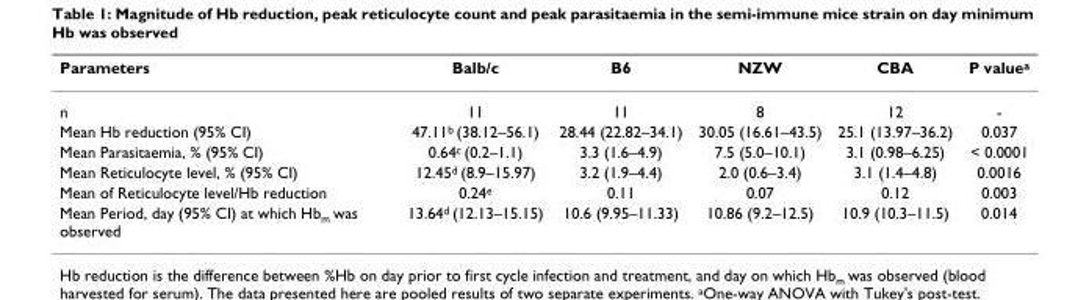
<table><thead><tr><td>Parameters</td><td>Balb/c</td><td>B6</td><td>NZW</td><td>CBA</td><td>P value<sup>a</sup></td></tr></thead><tbody><tr><td>n</td><td>11</td><td>11</td><td>8</td><td>12</td><td>-</td></tr><tr><td>Mean Hb reduction (95% CI)</td><td>47.11<sup>b</sup> (38.12–56.1)</td><td>28.44 (22.82–34.1)</td><td>30.05 (16.61–43.5)</td><td>25.1 (13.97–36.2)</td><td>0.037</td></tr><tr><td>Mean Parasitaemia, % (95% CI)</td><td>0.64<sup>c</sup> (0.2–1.1)</td><td>3.3 (1.6–4.9)</td><td>7.5 (5.0–10.1)</td><td>3.1 (0.98–6.25)</td><td>&lt; 0.0001</td></tr><tr><td>Mean Reticulocyte level, % (95% CI)</td><td>12.45<sup>d</sup> (8.9–15.97)</td><td>3.2 (1.9–4.4)</td><td>2.0 (0.6–3.4)</td><td>3.1 (1.4–4.8)</td><td>0.0016</td></tr><tr><td>Mean of Reticulocyte level/Hb reduction</td><td>0.24<sup>e</sup></td><td>0.11</td><td>0.07</td><td>0.12</td><td>0.003</td></tr><tr><td>Mean Period, day (95% CI) at which Hb<sub>m</sub> was observed</td><td>13.64<sup>d</sup> (12.13–15.15)</td><td>10.6 (9.95–11.33)</td><td>10.86 (9.2–12.5)</td><td>10.9 (10.3–11.5)</td><td>0.014</td></tr></tbody></table>